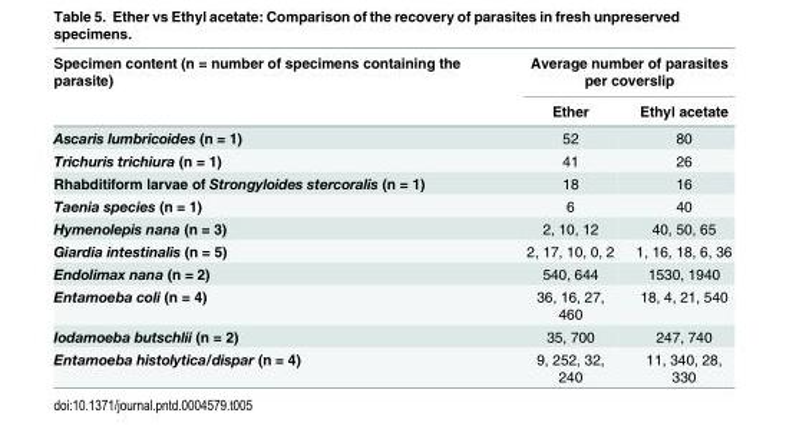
<table><thead><tr><td rowspan="2">Specimen content (n = number of specimens containing the parasite)</td><td colspan="2">Average number of parasites per coverslip</td></tr><tr><td>Ether</td><td>Ethyl acetate</td></tr></thead><tbody><tr><td>Ascaris lumbricoides (n = 1)</td><td>52</td><td>80</td></tr><tr><td>Trichuris trichiura (n = 1)</td><td>41</td><td>26</td></tr><tr><td>Rhabditiform larvae of Strongyloides stercoralis (n = 1)</td><td>18</td><td>16</td></tr><tr><td>Taenia species (n = 1)</td><td>6</td><td>40</td></tr><tr><td>Hymenolepis nana (n = 3)</td><td>2, 10, 12</td><td>40, 50, 65</td></tr><tr><td>Giardia intestinalis (n = 5)</td><td>2, 17, 10, 0, 2</td><td>1, 16, 18, 6, 36</td></tr><tr><td>Endolimax nana (n = 2)</td><td>540, 644</td><td>1530, 1940</td></tr><tr><td>Entamoeba coli (n = 4)</td><td>36, 16, 27, 460</td><td>18, 4, 21, 540</td></tr><tr><td>Iodamoeba butschlii (n = 2)</td><td>35, 700</td><td>247, 740</td></tr><tr><td>Entamoeba histolytica/dispar (n = 4)</td><td>9, 252, 32, 240</td><td>11, 340, 28, 330</td></tr></tbody></table>